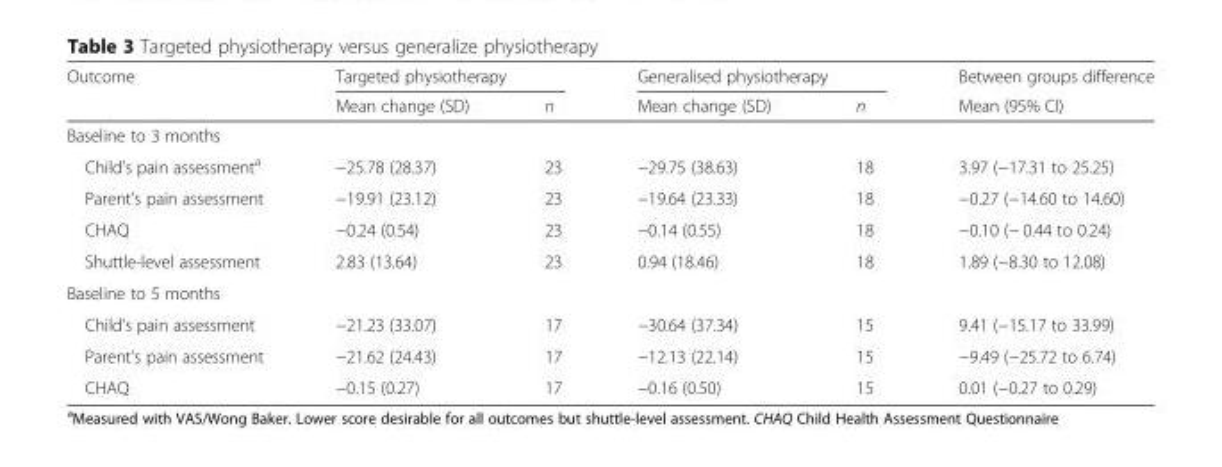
<table><thead><tr><td rowspan="2">Outcome</td><td colspan="2">Targeted physiotherapy</td><td colspan="2">Generalised physiotherapy</td><td rowspan="2">Between groups difference Mean (95% CI)</td></tr><tr><td>Mean change (SD)</td><td>n</td><td>Mean change (SD)</td><td>n</td></tr></thead><tbody><tr><td colspan="6">Baseline to 3 months</td></tr><tr><td>Child’s pain assessment<sup>a</sup></td><td>−25.78 (28.37)</td><td>23</td><td>−29.75 (38.63)</td><td>18</td><td>3.97 (−17.31 to 25.25)</td></tr><tr><td>Parent’s pain assessment</td><td>−19.91 (23.12)</td><td>23</td><td>−19.64 (23.33)</td><td>18</td><td>−0.27 (−14.60 to 14.60)</td></tr><tr><td>CHAQ</td><td>−0.24 (0.54)</td><td>23</td><td>−0.14 (0.55)</td><td>18</td><td>−0.10 (− 0.44 to 0.24)</td></tr><tr><td>Shuttle-level assessment</td><td>2.83 (13.64)</td><td>23</td><td>0.94 (18.46)</td><td>18</td><td>1.89 (−8.30 to 12.08)</td></tr><tr><td colspan="6">Baseline to 5 months</td></tr><tr><td>Child’s pain assessment</td><td>−21.23 (33.07)</td><td>17</td><td>−30.64 (37.34)</td><td>15</td><td>9.41 (−15.17 to 33.99)</td></tr><tr><td>Parent’s pain assessment</td><td>−21.62 (24.43)</td><td>17</td><td>−12.13 (22.14)</td><td>15</td><td>−9.49 (−25.72 to 6.74)</td></tr><tr><td>CHAQ</td><td>−0.15 (0.27)</td><td>17</td><td>−0.16 (0.50)</td><td>15</td><td>0.01 (−0.27 to 0.29)</td></tr></tbody></table>